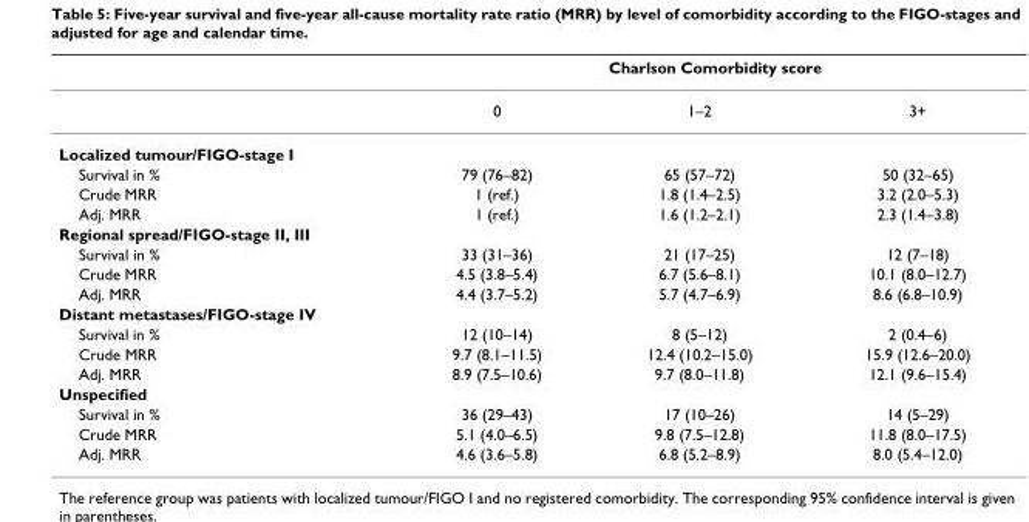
<table><thead><tr><td rowspan="2"></td><td colspan="3">Charlson Comorbidity score</td></tr><tr><td>0</td><td>1–2</td><td>3+</td></tr></thead><tbody><tr><td colspan="4">Localized tumour/FIGO-stage I</td></tr><tr><td>Survival in %</td><td>79 (76–82)</td><td>65 (57–72)</td><td>50 (32–65)</td></tr><tr><td>Crude MRR</td><td>1 (ref.)</td><td>1.8 (1.4–2.5)</td><td>3.2 (2.0–5.3)</td></tr><tr><td>Adj. MRR</td><td>1 (ref.)</td><td>1.6 (1.2–2.1)</td><td>2.3 (1.4–3.8)</td></tr><tr><td colspan="4">Regional spread/FIGO-stage II, III</td></tr><tr><td>Survival in %</td><td>33 (31–36)</td><td>21 (17–25)</td><td>12 (7–18)</td></tr><tr><td>Crude MRR</td><td>4.5 (3.8–5.4)</td><td>6.7 (5.6–8.1)</td><td>10.1 (8.0–12.7)</td></tr><tr><td>Adj. MRR</td><td>4.4 (3.7–5.2)</td><td>5.7 (4.7–6.9)</td><td>8.6 (6.8–10.9)</td></tr><tr><td colspan="4">Distant metastases/FIGO-stage IV</td></tr><tr><td>Survival in %</td><td>12 (10–14)</td><td>8 (5–12)</td><td>2 (0.4–6)</td></tr><tr><td>Crude MRR</td><td>9.7 (8.1–11.5)</td><td>12.4 (10.2–15.0)</td><td>15.9 (12.6–20.0)</td></tr><tr><td>Adj. MRR</td><td>8.9 (7.5–10.6)</td><td>9.7 (8.0–11.8)</td><td>12.1 (9.6–15.4)</td></tr><tr><td colspan="4">Unspecified</td></tr><tr><td>Survival in %</td><td>36 (29–43)</td><td>17 (10–26)</td><td>14 (5–29)</td></tr><tr><td>Crude MRR</td><td>5.1 (4.0–6.5)</td><td>9.8 (7.5–12.8)</td><td>11.8 (8.0–17.5)</td></tr><tr><td>Adj. MRR</td><td>4.6 (3.6–5.8)</td><td>6.8 (5.2–8.9)</td><td>8.0 (5.4–12.0)</td></tr></tbody></table>